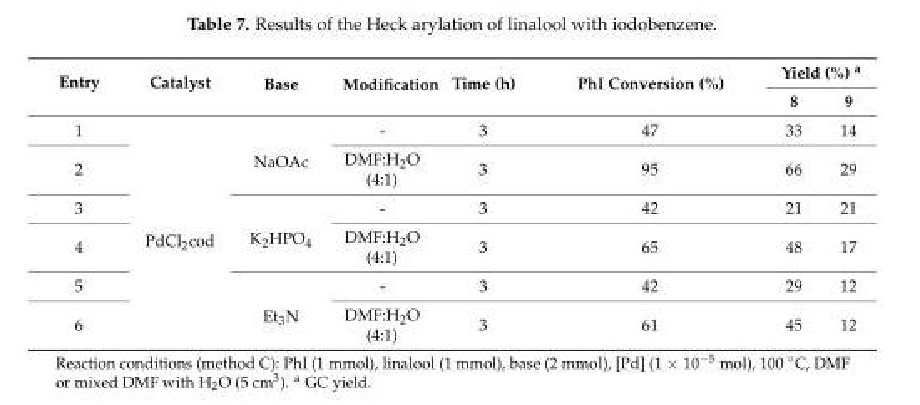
<table><thead><tr><td rowspan="2">Entry</td><td rowspan="2">Catalyst</td><td rowspan="2">Base</td><td rowspan="2">Modification</td><td rowspan="2">Time (h)</td><td rowspan="2">PhI Conversion (%)</td><td colspan="2">Yield (%) a</td></tr><tr><td>8</td><td>9</td></tr></thead><tbody><tr><td>1</td><td rowspan="6">PdCl2cod</td><td rowspan="2">NaOAc</td><td>-</td><td>3</td><td>47</td><td>33</td><td>14</td></tr><tr><td>2</td><td>DMF:H2O (4:1)</td><td>3</td><td>95</td><td>66</td><td>29</td></tr><tr><td>3</td><td rowspan="2">K2HPO4</td><td>-</td><td>3</td><td>42</td><td>21</td><td>21</td></tr><tr><td>4</td><td>DMF:H2O (4:1)</td><td>3</td><td>65</td><td>48</td><td>17</td></tr><tr><td>5</td><td rowspan="2">Et3N</td><td>-</td><td>3</td><td>42</td><td>29</td><td>12</td></tr><tr><td>6</td><td>DMF:H2O (4:1)</td><td>3</td><td>61</td><td>45</td><td>12</td></tr></tbody></table>